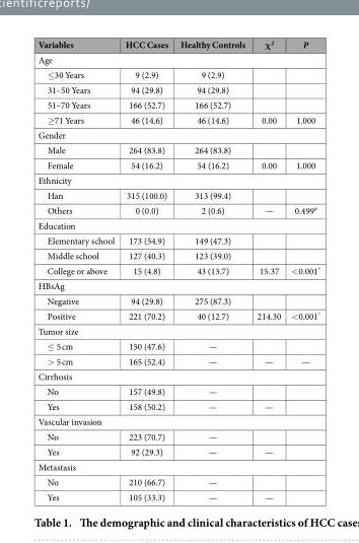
<table><thead><tr><td>Variables</td><td>HCC Cases</td><td>Healthy Controls</td><td>χ<sup>2</sup></td><td>P</td></tr></thead><tbody><tr><td colspan="5">Age</td></tr><tr><td>≤ 30 Years</td><td>9 (2.9)</td><td>9 (2.9)</td><td></td><td></td></tr><tr><td>31–50 Years</td><td>94 (29.8)</td><td>94 (29.8)</td><td></td><td></td></tr><tr><td>51–70 Years</td><td>166 (52.7)</td><td>166 (52.7)</td><td></td><td></td></tr><tr><td>≥ 71 Years</td><td>46 (14.6)</td><td>46 (14.6)</td><td>0.00</td><td>1.000</td></tr><tr><td colspan="5">Gender</td></tr><tr><td>Male</td><td>264 (83.8)</td><td>264 (83.8)</td><td></td><td></td></tr><tr><td>Female</td><td>54 (16.2)</td><td>54 (16.2)</td><td>0.00</td><td>1.000</td></tr><tr><td colspan="5">Ethnicity</td></tr><tr><td>Han</td><td>315 (100.0)</td><td>313 (99.4)</td><td></td><td></td></tr><tr><td>Others</td><td>0 (0.0)</td><td>2 (0.6)</td><td>—</td><td>0.499<sup>#</sup></td></tr><tr><td colspan="5">Education</td></tr><tr><td>Elementary school</td><td>173 (54.9)</td><td>149 (47.3)</td><td></td><td></td></tr><tr><td>Middle school</td><td>127 (40.3)</td><td>123 (39.0)</td><td></td><td></td></tr><tr><td>College or above</td><td>15 (4.8)</td><td>43 (13.7)</td><td>15.37</td><td>&lt; 0.001*</td></tr><tr><td colspan="5">HBsAg</td></tr><tr><td>Negative</td><td>94 (29.8)</td><td>275 (87.3)</td><td></td><td></td></tr><tr><td>Positive</td><td>221 (70.2)</td><td>40 (12.7)</td><td>214.30</td><td>&lt; 0.001*</td></tr><tr><td colspan="5">Tumor size</td></tr><tr><td>≤ 5 cm</td><td>150 (47.6)</td><td>—</td><td></td><td></td></tr><tr><td>&gt; 5 cm</td><td>165 (52.4)</td><td>—</td><td>—</td><td>—</td></tr><tr><td colspan="5">Cirrhosis</td></tr><tr><td>No</td><td>157 (49.8)</td><td>—</td><td></td><td></td></tr><tr><td>Yes</td><td>158 (50.2)</td><td>—</td><td>—</td><td></td></tr><tr><td colspan="5">Vascular invasion</td></tr><tr><td>No</td><td>223 (70.7)</td><td>—</td><td></td><td></td></tr><tr><td>Yes</td><td>92 (29.3)</td><td>—</td><td>—</td><td></td></tr><tr><td colspan="5">Metastasis</td></tr><tr><td>No</td><td>210 (66.7)</td><td>—</td><td></td><td></td></tr><tr><td>Yes</td><td>105 (33.3)</td><td>—</td><td>—</td><td></td></tr></tbody></table>